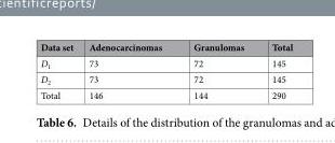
<table><thead><tr><td>Data set</td><td>Adenocarcinomas</td><td>Granulomas</td><td>Total</td></tr></thead><tbody><tr><td>D<sub>1</sub></td><td>73</td><td>72</td><td>145</td></tr><tr><td>D<sub>2</sub></td><td>73</td><td>72</td><td>145</td></tr><tr><td>Total</td><td>146</td><td>144</td><td>290</td></tr></tbody></table>